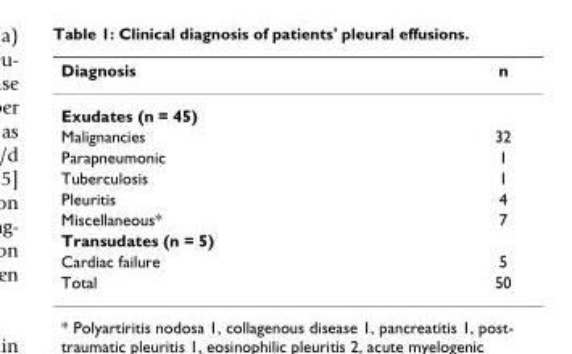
<table><thead><tr><td>Diagnosis</td><td>n</td></tr></thead><tbody><tr><td colspan="2">Exudates (n = 45)</td></tr><tr><td>Malignancies</td><td>32</td></tr><tr><td>Parapneumonic</td><td>1</td></tr><tr><td>Tuberculosis</td><td>1</td></tr><tr><td>Pleuritis</td><td>4</td></tr><tr><td>Miscellaneous*</td><td>7</td></tr><tr><td colspan="2">Transudates (n = 5)</td></tr><tr><td>Cardiac failure</td><td>5</td></tr><tr><td>Total</td><td>50</td></tr></tbody></table>